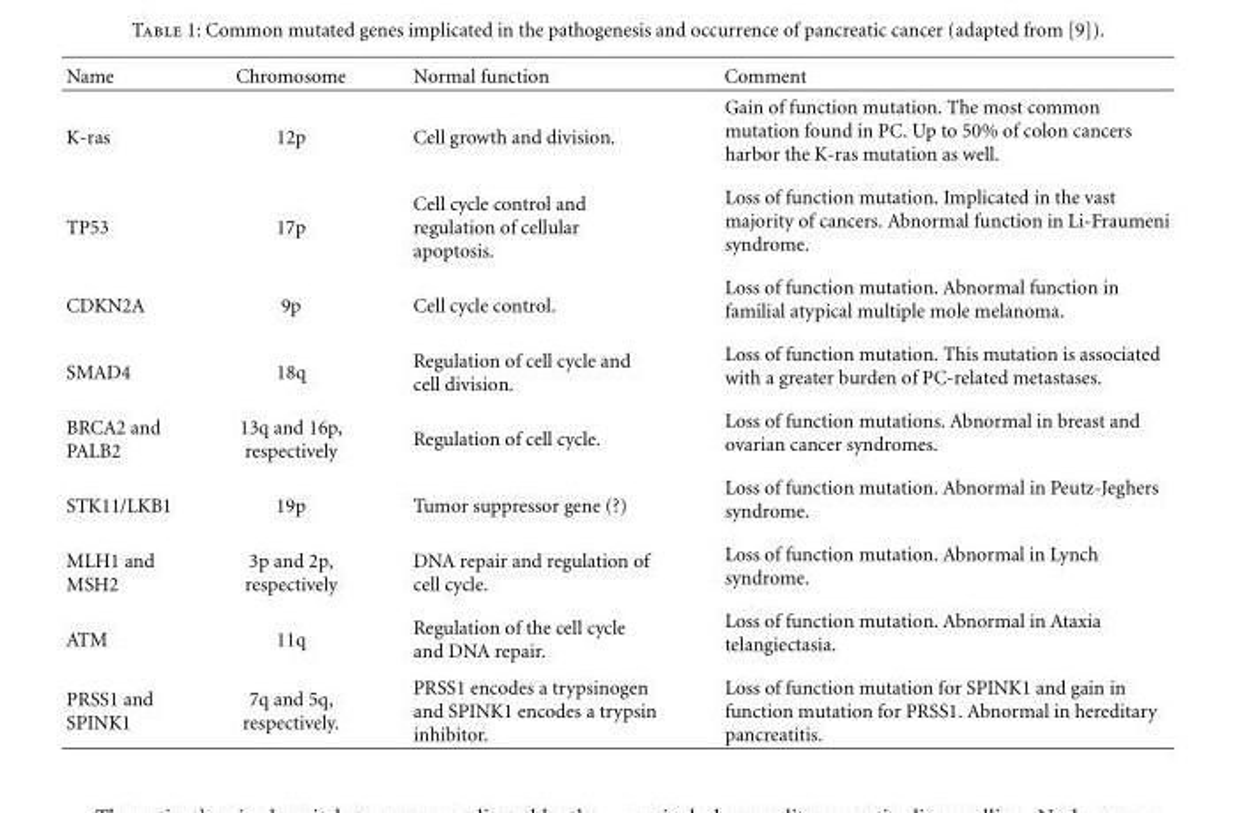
<table><thead><tr><td>Name</td><td>Chromosome</td><td>Normal function</td><td>Comment</td></tr></thead><tbody><tr><td>K-ras</td><td>12p</td><td>Cell growth and division.</td><td>Gain of function mutation. The most common mutation found in PC. Up to 50% of colon cancers harbor the K-ras mutation as well.</td></tr><tr><td>TP53</td><td>17p</td><td>Cell cycle control and regulation of cellular apoptosis.</td><td>Loss of function mutation. Implicated in the vast majority of cancers. Abnormal function in Li-Fraumeni syndrome.</td></tr><tr><td>CDKN2A</td><td>9p</td><td>Cell cycle control.</td><td>Loss of function mutation. Abnormal function in familial atypical multiple mole melanoma.</td></tr><tr><td>SMAD4</td><td>18q</td><td>Regulation of cell cycle and cell division.</td><td>Loss of function mutation. This mutation is associated with a greater burden of PC-related metastases.</td></tr><tr><td>BRCA2 and PALB2</td><td>13q and 16p, respectively</td><td>Regulation of cell cycle.</td><td>Loss of function mutations. Abnormal in breast and ovarian cancer syndromes.</td></tr><tr><td>STK11/LKB1</td><td>19p</td><td>Tumor suppressor gene (?)</td><td>Loss of function mutation. Abnormal in Peutz-Jeghers syndrome.</td></tr><tr><td>MLH1 and MSH2</td><td>3p and 2p, respectively</td><td>DNA repair and regulation of cell cycle.</td><td>Loss of function mutation. Abnormal in Lynch syndrome.</td></tr><tr><td>ATM</td><td>11q</td><td>Regulation of the cell cycle and DNA repair.</td><td>Loss of function mutation. Abnormal in Ataxia telangiectasia.</td></tr><tr><td>PRSS1 and SPINK1</td><td>7q and 5q, respectively.</td><td>PRSS1 encodes a trypsinogen and SPINK1 encodes a trypsin inhibitor.</td><td>Loss of function mutation for SPINK1 and gain in function mutation for PRSS1. Abnormal in hereditary pancreatitis.</td></tr></tbody></table>